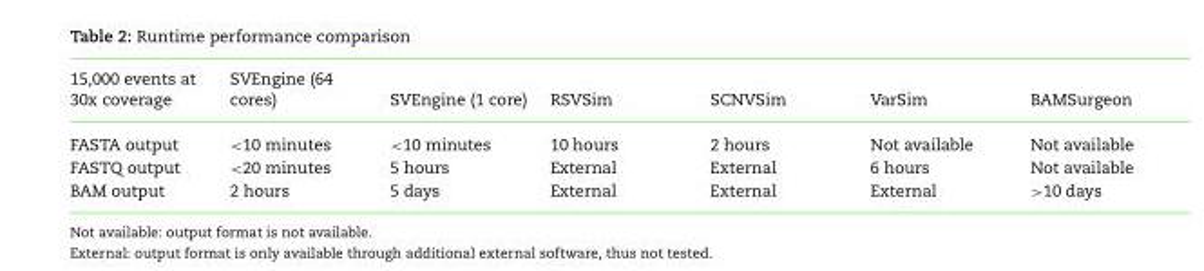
<table><thead><tr><td>15,000 events at 30x coverage</td><td>SVEngine (64 cores)</td><td>SVEngine (1 core)</td><td>RSVSim</td><td>SCNVSim</td><td>VarSim</td><td>BAMSurgeon</td></tr></thead><tbody><tr><td>FASTA output</td><td>&lt;10 minutes</td><td>&lt;10 minutes</td><td>10 hours</td><td>2 hours</td><td>Not available</td><td>Not available</td></tr><tr><td>FASTQ output</td><td>&lt;20 minutes</td><td>5 hours</td><td>External</td><td>External</td><td>6 hours</td><td>Not available</td></tr><tr><td>BAM output</td><td>2 hours</td><td>5 days</td><td>External</td><td>External</td><td>External</td><td>&gt;10 days</td></tr></tbody></table>